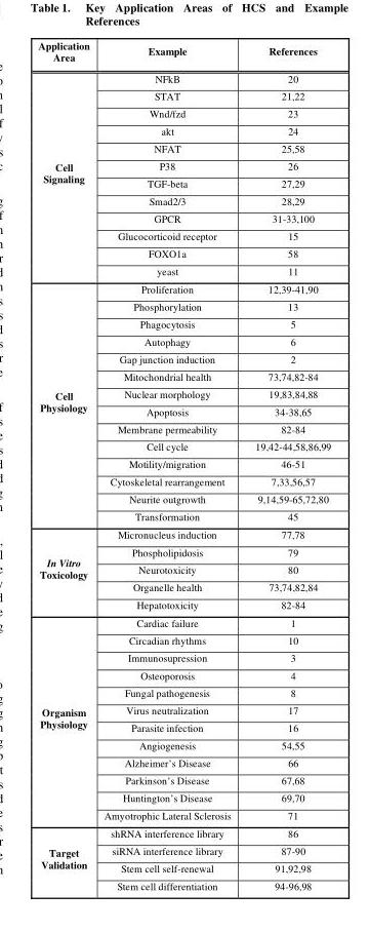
<table><thead><tr><td>Application Area</td><td>Example</td><td>References</td></tr></thead><tbody><tr><td rowspan="12">Cell Signaling</td><td>NFkB</td><td>20</td></tr><tr><td>STAT</td><td>21,22</td></tr><tr><td>Wnd/fzd</td><td>23</td></tr><tr><td>akt</td><td>24</td></tr><tr><td>NFAT</td><td>25,58</td></tr><tr><td>P38</td><td>26</td></tr><tr><td>TGF-beta</td><td>27,29</td></tr><tr><td>Smad2/3</td><td>28,29</td></tr><tr><td>GPCR</td><td>31-33,100</td></tr><tr><td>Glucocorticoid receptor</td><td>15</td></tr><tr><td>FOXO1a</td><td>58</td></tr><tr><td>yeast</td><td>11</td></tr><tr><td rowspan="14">Cell Physiology</td><td>Proliferation</td><td>12,39-41,90</td></tr><tr><td>Phosphorylation</td><td>13</td></tr><tr><td>Phagocytosis</td><td>5</td></tr><tr><td>Autophagy</td><td>6</td></tr><tr><td>Gap junction induction</td><td>2</td></tr><tr><td>Mitochondrial health</td><td>73,74,82-84</td></tr><tr><td>Nuclear morphology</td><td>19,83,84,88</td></tr><tr><td>Apoptosis</td><td>34-38,65</td></tr><tr><td>Membrane permeability</td><td>82-84</td></tr><tr><td>Cell cycle</td><td>19,42-44,58,86,99</td></tr><tr><td>Motility/migration</td><td>46-51</td></tr><tr><td>Cytoskeletal rearrangement</td><td>7,33,56,57</td></tr><tr><td>Neurite outgrowth</td><td>9,14,59-65,72,80</td></tr><tr><td>Transformation</td><td>45</td></tr><tr><td rowspan="5">In Vitro Toxicology</td><td>Micronucleus induction</td><td>77,78</td></tr><tr><td>Phospholipidosis</td><td>79</td></tr><tr><td>Neurotoxicity</td><td>80</td></tr><tr><td>Organelle health</td><td>73,74,82,84</td></tr><tr><td>Hepatotoxicity</td><td>82-84</td></tr><tr><td rowspan="12">Organism Physiology</td><td>Cardiac failure</td><td>1</td></tr><tr><td>Circadian rhythms</td><td>10</td></tr><tr><td>Immunosupression</td><td>3</td></tr><tr><td>Osteoporosis</td><td>4</td></tr><tr><td>Fungal pathogenesis</td><td>8</td></tr><tr><td>Virus neutralization</td><td>17</td></tr><tr><td>Parasite infection</td><td>16</td></tr><tr><td>Angiogenesis</td><td>54,55</td></tr><tr><td>Alzheimer’s Disease</td><td>66</td></tr><tr><td>Parkinson’s Disease</td><td>67,68</td></tr><tr><td>Huntington’s Disease</td><td>69,70</td></tr><tr><td>Amyotrophic Lateral Sclerosis</td><td>71</td></tr><tr><td rowspan="4">Target Validation</td><td>shRNA interference library</td><td>86</td></tr><tr><td>siRNA interference library</td><td>87-90</td></tr><tr><td>Stem cell self-renewal</td><td>91,92,98</td></tr><tr><td>Stem cell differentiation</td><td>94-96,98</td></tr></tbody></table>